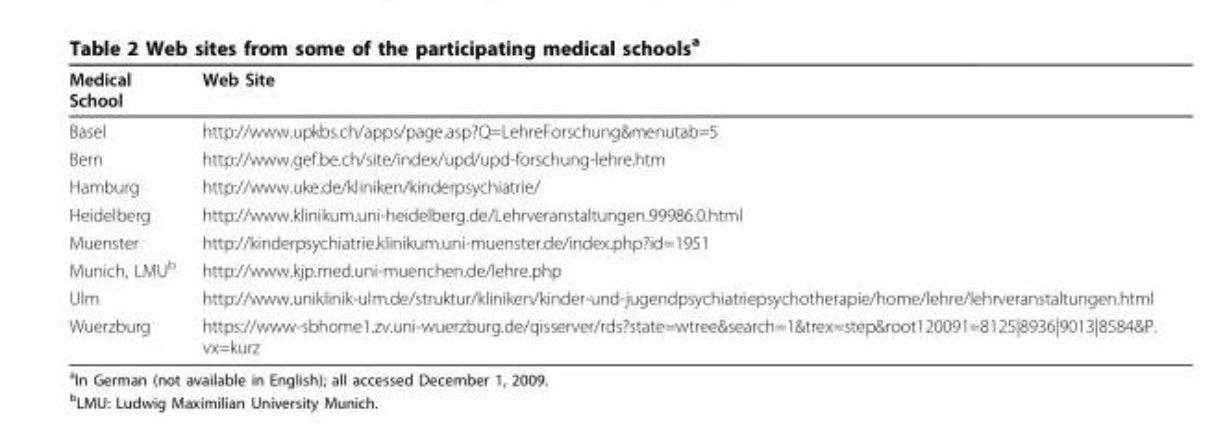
<table><thead><tr><td>Medical School</td><td>Web Site</td></tr></thead><tbody><tr><td>Basel</td><td>http://www.upkbs.ch/apps/page.asp?Q=LehreForschung&amp;menutab=5</td></tr><tr><td>Bern</td><td>http://www.gef.be.ch/site/index/upd/upd-forschung-lehre.htm</td></tr><tr><td>Hamburg</td><td>http://www.uke.de/kliniken/kinderpsychiatrie/</td></tr><tr><td>Heidelberg</td><td>http://www.klinikum.uni-heidelberg.de/Lehrveranstaltungen.99986.0.html</td></tr><tr><td>Muenster</td><td>http://kinderpsychiatrie.klinikum.uni-muenster.de/index.php?id=1951</td></tr><tr><td>Munich, LMU<sup>b</sup></td><td>http://www.kjp.med.uni-muenchen.de/lehre.php</td></tr><tr><td>Ulm</td><td>http://www.uniklinik-ulm.de/struktur/kliniken/kinder-und-jugendpsychiatriepsychotherapie/home/lehre/lehrveranstaltungen.html</td></tr><tr><td>Wuerzburg</td><td>https://www-sbhome1.zv.uni-wuerzburg.de/qisserver/rds?state=wtree&amp;search=1&amp;trex=step&amp;root120091=8125|8936|9013|8584&amp;P. vx=kurz</td></tr></tbody></table>